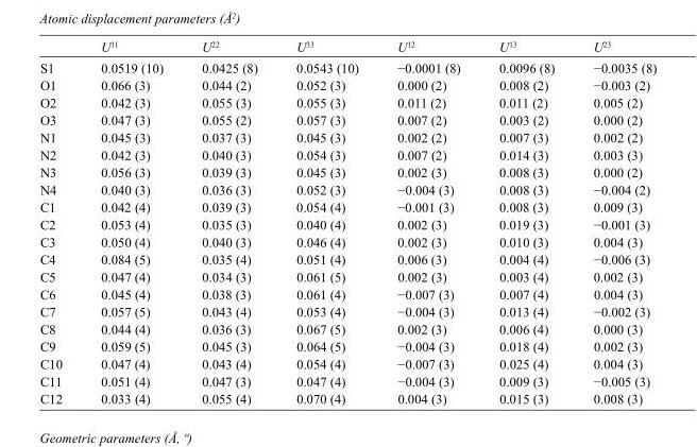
<table><thead><tr><td></td><td>U<sup>11</sup></td><td>U<sup>22</sup></td><td>U<sup>33</sup></td><td>U<sup>12</sup></td><td>U<sup>13</sup></td><td>U<sup>23</sup></td></tr></thead><tbody><tr><td>S1</td><td>0.0519 (10)</td><td>0.0425 (8)</td><td>0.0543 (10)</td><td>−0.0001 (8)</td><td>0.0096 (8)</td><td>−0.0035 (8)</td></tr><tr><td>O1</td><td>0.066 (3)</td><td>0.044 (2)</td><td>0.052 (3)</td><td>0.000 (2)</td><td>0.008 (2)</td><td>−0.003 (2)</td></tr><tr><td>O2</td><td>0.042 (3)</td><td>0.055 (3)</td><td>0.055 (3)</td><td>0.011 (2)</td><td>0.011 (2)</td><td>0.005 (2)</td></tr><tr><td>O3</td><td>0.047 (3)</td><td>0.055 (2)</td><td>0.057 (3)</td><td>0.007 (2)</td><td>0.003 (2)</td><td>0.000 (2)</td></tr><tr><td>N1</td><td>0.045 (3)</td><td>0.037 (3)</td><td>0.045 (3)</td><td>0.002 (2)</td><td>0.007 (3)</td><td>0.002 (2)</td></tr><tr><td>N2</td><td>0.042 (3)</td><td>0.040 (3)</td><td>0.054 (3)</td><td>0.007 (2)</td><td>0.014 (3)</td><td>0.003 (3)</td></tr><tr><td>N3</td><td>0.056 (3)</td><td>0.039 (3)</td><td>0.045 (3)</td><td>0.002 (3)</td><td>0.008 (3)</td><td>0.000 (2)</td></tr><tr><td>N4</td><td>0.040 (3)</td><td>0.036 (3)</td><td>0.052 (3)</td><td>−0.004 (3)</td><td>0.008 (3)</td><td>−0.004 (2)</td></tr><tr><td>C1</td><td>0.042 (4)</td><td>0.039 (3)</td><td>0.054 (4)</td><td>−0.001 (3)</td><td>0.008 (3)</td><td>0.009 (3)</td></tr><tr><td>C2</td><td>0.053 (4)</td><td>0.035 (3)</td><td>0.040 (4)</td><td>0.002 (3)</td><td>0.019 (3)</td><td>−0.001 (3)</td></tr><tr><td>C3</td><td>0.050 (4)</td><td>0.040 (3)</td><td>0.046 (4)</td><td>0.002 (3)</td><td>0.010 (3)</td><td>0.004 (3)</td></tr><tr><td>C4</td><td>0.084 (5)</td><td>0.035 (4)</td><td>0.051 (4)</td><td>0.006 (3)</td><td>0.004 (4)</td><td>−0.006 (3)</td></tr><tr><td>C5</td><td>0.047 (4)</td><td>0.034 (3)</td><td>0.061 (5)</td><td>0.002 (3)</td><td>0.003 (4)</td><td>0.002 (3)</td></tr><tr><td>C6</td><td>0.045 (4)</td><td>0.038 (3)</td><td>0.061 (4)</td><td>−0.007 (3)</td><td>0.007 (4)</td><td>0.004 (3)</td></tr><tr><td>C7</td><td>0.057 (5)</td><td>0.043 (4)</td><td>0.053 (4)</td><td>−0.004 (3)</td><td>0.013 (4)</td><td>−0.002 (3)</td></tr><tr><td>C8</td><td>0.044 (4)</td><td>0.036 (3)</td><td>0.067 (5)</td><td>0.002 (3)</td><td>0.006 (4)</td><td>0.000 (3)</td></tr><tr><td>C9</td><td>0.059 (5)</td><td>0.045 (3)</td><td>0.064 (5)</td><td>−0.004 (3)</td><td>0.018 (4)</td><td>0.002 (3)</td></tr><tr><td>C10</td><td>0.047 (4)</td><td>0.043 (4)</td><td>0.054 (4)</td><td>−0.007 (3)</td><td>0.025 (4)</td><td>0.004 (3)</td></tr><tr><td>C11</td><td>0.051 (4)</td><td>0.047 (3)</td><td>0.047 (4)</td><td>−0.004 (3)</td><td>0.009 (3)</td><td>−0.005 (3)</td></tr><tr><td>C12</td><td>0.033 (4)</td><td>0.055 (4)</td><td>0.070 (4)</td><td>0.004 (3)</td><td>0.015 (3)</td><td>0.008 (3)</td></tr></tbody></table>